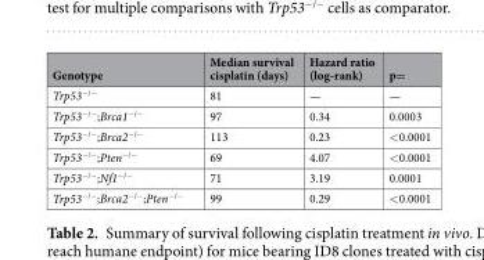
<table><thead><tr><td>Genotype</td><td>Median survival cisplatin (days)</td><td>Hazard ratio (log-rank)</td><td>p=</td></tr></thead><tbody><tr><td>Trp53<sup>−/−</sup></td><td>81</td><td>—</td><td>—</td></tr><tr><td>Trp53<sup>−/−</sup>;Brca1<sup>−/−</sup></td><td>97</td><td>0.34</td><td>0.0003</td></tr><tr><td>Trp53<sup>−/−</sup>;Brca2<sup>−/−</sup></td><td>113</td><td>0.23</td><td>&lt;0.0001</td></tr><tr><td>Trp53<sup>−/−</sup>;Pten<sup>−/−</sup></td><td>69</td><td>4.07</td><td>&lt;0.0001</td></tr><tr><td>Trp53<sup>−/−</sup>;Nf1<sup>−/−</sup></td><td>71</td><td>3.19</td><td>0.0001</td></tr><tr><td>Trp53<sup>−/−</sup>;Brca2<sup>−/−</sup>;Pten<sup>−/−</sup></td><td>99</td><td>0.29</td><td>&lt;0.0001</td></tr></tbody></table>